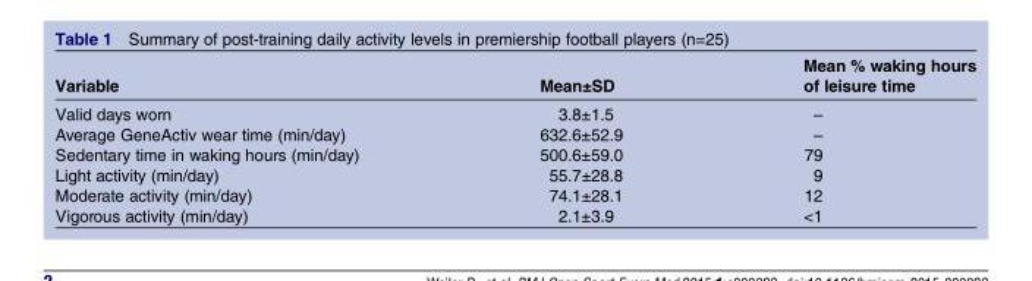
<table><thead><tr><td>Variable</td><td>Mean±SD</td><td>Mean % waking hours of leisure time</td></tr></thead><tbody><tr><td>Valid days worn</td><td>3.8±1.5</td><td>–</td></tr><tr><td>Average GeneActiv wear time (min/day)</td><td>632.6±52.9</td><td>–</td></tr><tr><td>Sedentary time in waking hours (min/day)</td><td>500.6±59.0</td><td>79</td></tr><tr><td>Light activity (min/day)</td><td>55.7±28.8</td><td>9</td></tr><tr><td>Moderate activity (min/day)</td><td>74.1±28.1</td><td>12</td></tr><tr><td>Vigorous activity (min/day)</td><td>2.1±3.9</td><td>&lt;1</td></tr></tbody></table>